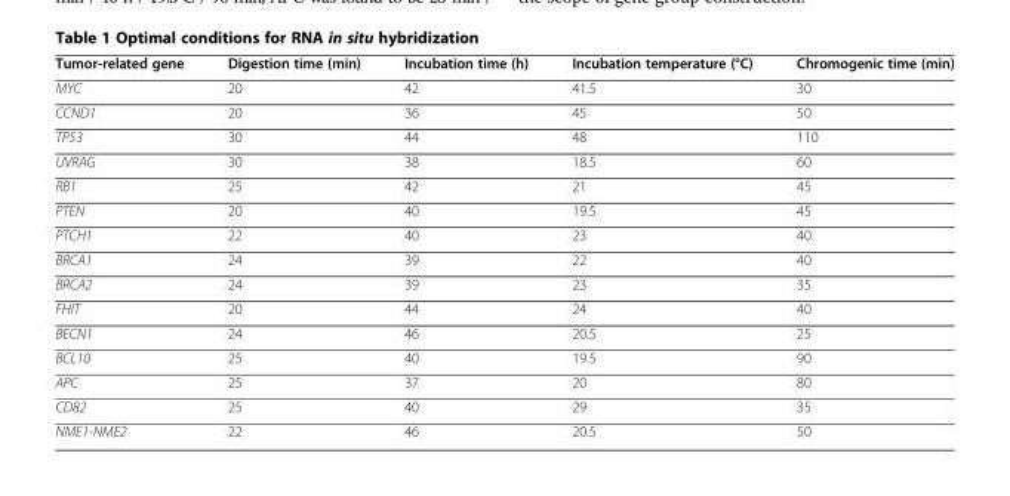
<table><thead><tr><td>Tumor-related gene</td><td>Digestion time (min)</td><td>Incubation time (h)</td><td>Incubation temperature (°C)</td><td>Chromogenic time (min)</td></tr></thead><tbody><tr><td>MYC</td><td>20</td><td>42</td><td>41.5</td><td>30</td></tr><tr><td>CCND1</td><td>20</td><td>36</td><td>45</td><td>50</td></tr><tr><td>TP53</td><td>30</td><td>44</td><td>48</td><td>110</td></tr><tr><td>UVRAG</td><td>30</td><td>38</td><td>18.5</td><td>60</td></tr><tr><td>RB1</td><td>25</td><td>42</td><td>21</td><td>45</td></tr><tr><td>PTEN</td><td>20</td><td>40</td><td>19.5</td><td>45</td></tr><tr><td>PTCH1</td><td>22</td><td>40</td><td>23</td><td>40</td></tr><tr><td>BRCA1</td><td>24</td><td>39</td><td>22</td><td>40</td></tr><tr><td>BRCA2</td><td>24</td><td>39</td><td>23</td><td>35</td></tr><tr><td>FHIT</td><td>20</td><td>44</td><td>24</td><td>40</td></tr><tr><td>BECN1</td><td>24</td><td>46</td><td>20.5</td><td>25</td></tr><tr><td>BCL10</td><td>25</td><td>40</td><td>19.5</td><td>90</td></tr><tr><td>APC</td><td>25</td><td>37</td><td>20</td><td>80</td></tr><tr><td>CD82</td><td>25</td><td>40</td><td>29</td><td>35</td></tr><tr><td>NME1-NME2</td><td>22</td><td>46</td><td>20.5</td><td>50</td></tr></tbody></table>